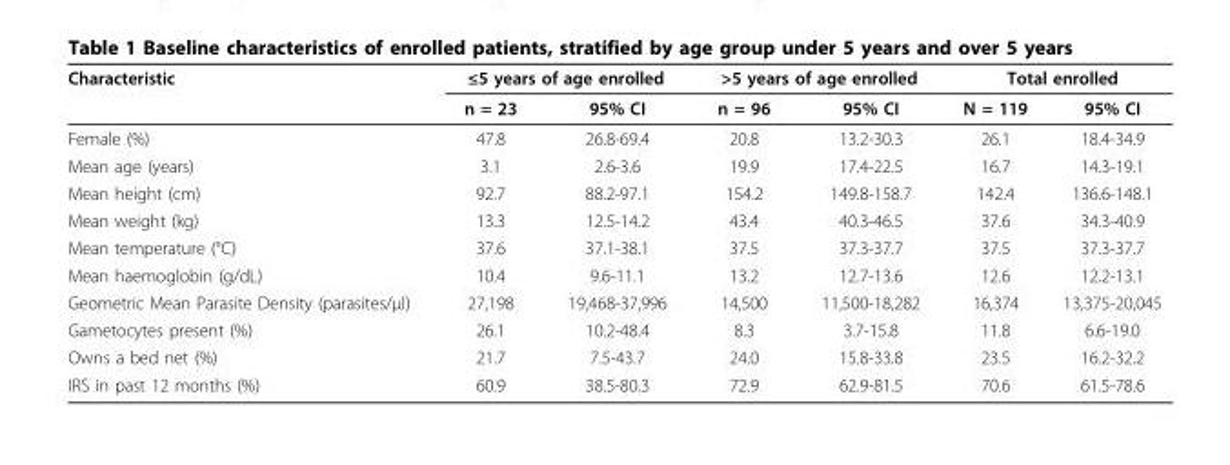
<table><thead><tr><td rowspan="2">Characteristic</td><td colspan="2">≤5 years of age enrolled</td><td colspan="2">&gt;5 years of age enrolled</td><td colspan="2">Total enrolled</td></tr><tr><td>n = 23</td><td>95% CI</td><td>n = 96</td><td>95% CI</td><td>N = 119</td><td>95% CI</td></tr></thead><tbody><tr><td>Female (%)</td><td>47.8</td><td>26.8-69.4</td><td>20.8</td><td>13.2-30.3</td><td>26.1</td><td>18.4-34.9</td></tr><tr><td>Mean age (years)</td><td>3.1</td><td>2.6-3.6</td><td>19.9</td><td>17.4-22.5</td><td>16.7</td><td>14.3-19.1</td></tr><tr><td>Mean height (cm)</td><td>92.7</td><td>88.2-97.1</td><td>154.2</td><td>149.8-158.7</td><td>142.4</td><td>136.6-148.1</td></tr><tr><td>Mean weight (kg)</td><td>13.3</td><td>12.5-14.2</td><td>43.4</td><td>40.3-46.5</td><td>37.6</td><td>34.3-40.9</td></tr><tr><td>Mean temperature (°C)</td><td>37.6</td><td>37.1-38.1</td><td>37.5</td><td>37.3-37.7</td><td>37.5</td><td>37.3-37.7</td></tr><tr><td>Mean haemoglobin (g/dL)</td><td>10.4</td><td>9.6-11.1</td><td>13.2</td><td>12.7-13.6</td><td>12.6</td><td>12.2-13.1</td></tr><tr><td>Geometric Mean Parasite Density (parasites/μl)</td><td>27,198</td><td>19,468-37,996</td><td>14,500</td><td>11,500-18,282</td><td>16,374</td><td>13,375-20,045</td></tr><tr><td>Gametocytes present (%)</td><td>26.1</td><td>10.2-48.4</td><td>8.3</td><td>3.7-15.8</td><td>11.8</td><td>6.6-19.0</td></tr><tr><td>Owns a bed net (%)</td><td>21.7</td><td>7.5-43.7</td><td>24.0</td><td>15.8-33.8</td><td>23.5</td><td>16.2-32.2</td></tr><tr><td>IRS in past 12 months (%)</td><td>60.9</td><td>38.5-80.3</td><td>72.9</td><td>62.9-81.5</td><td>70.6</td><td>61.5-78.6</td></tr></tbody></table>